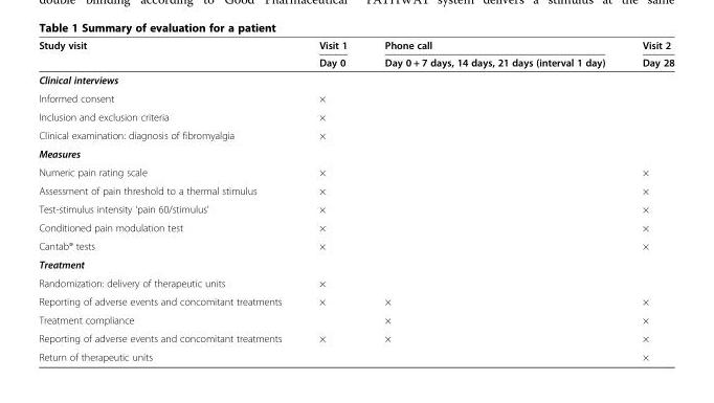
<table><thead><tr><td rowspan="2">Study visit</td><td rowspan="2">Visit 1 Day 0</td><td rowspan="2">Phone call Day 0 + 7 days, 14 days, 21 days (interval 1 day)</td><td rowspan="2">Visit 2 Day 28</td></tr><tr></tr></thead><tbody><tr><td colspan="4">Clinical interviews</td></tr><tr><td>Informed consent</td><td>×</td><td></td><td></td></tr><tr><td>Inclusion and exclusion criteria</td><td>×</td><td></td><td></td></tr><tr><td>Clinical examination: diagnosis of fibromyalgia</td><td>×</td><td></td><td></td></tr><tr><td colspan="4">Measures</td></tr><tr><td>Numeric pain rating scale</td><td>×</td><td></td><td>×</td></tr><tr><td>Assessment of pain threshold to a thermal stimulus</td><td>×</td><td></td><td>×</td></tr><tr><td>Test-stimulus intensity ‘pain 60/stimulus’</td><td>×</td><td></td><td>×</td></tr><tr><td>Conditioned pain modulation test</td><td>×</td><td></td><td>×</td></tr><tr><td>Cantab® tests</td><td>×</td><td></td><td>×</td></tr><tr><td colspan="4">Treatment</td></tr><tr><td>Randomization: delivery of therapeutic units</td><td>×</td><td></td><td></td></tr><tr><td>Reporting of adverse events and concomitant treatments</td><td>×</td><td>×</td><td>×</td></tr><tr><td>Treatment compliance</td><td></td><td>×</td><td>×</td></tr><tr><td>Reporting of adverse events and concomitant treatments</td><td>×</td><td>×</td><td>×</td></tr><tr><td>Return of therapeutic units</td><td></td><td></td><td>×</td></tr></tbody></table>